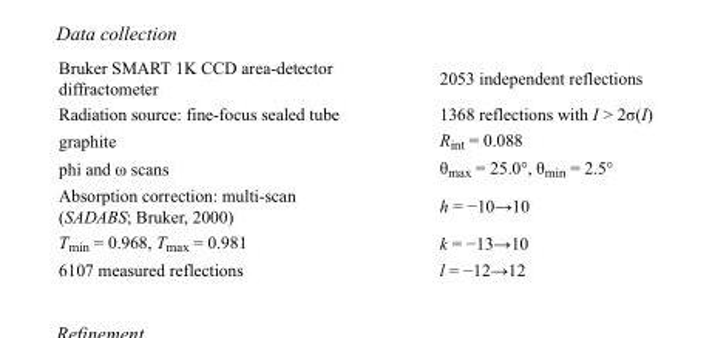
<table><tbody><tr><td>Bruker SMART 1K CCD area-detector diffractometer</td><td>2053 independent reflections</td></tr><tr><td>Radiation source: fine-focus sealed tube</td><td>1368 reflections with I &gt; 2σ(I)</td></tr><tr><td>graphite</td><td>R<sub>int</sub> = 0.088</td></tr><tr><td>phi and ω scans</td><td>θ<sub>max</sub> = 25.0°, θ<sub>min</sub> = 2.5°</td></tr><tr><td>Absorption correction: multi-scan (SADABS; Bruker, 2000)</td><td>h = −10→10</td></tr><tr><td>T<sub>min</sub> = 0.968, T<sub>max</sub> = 0.981</td><td>k = −13→10</td></tr><tr><td>6107 measured reflections</td><td>l = −12→12</td></tr></tbody></table>